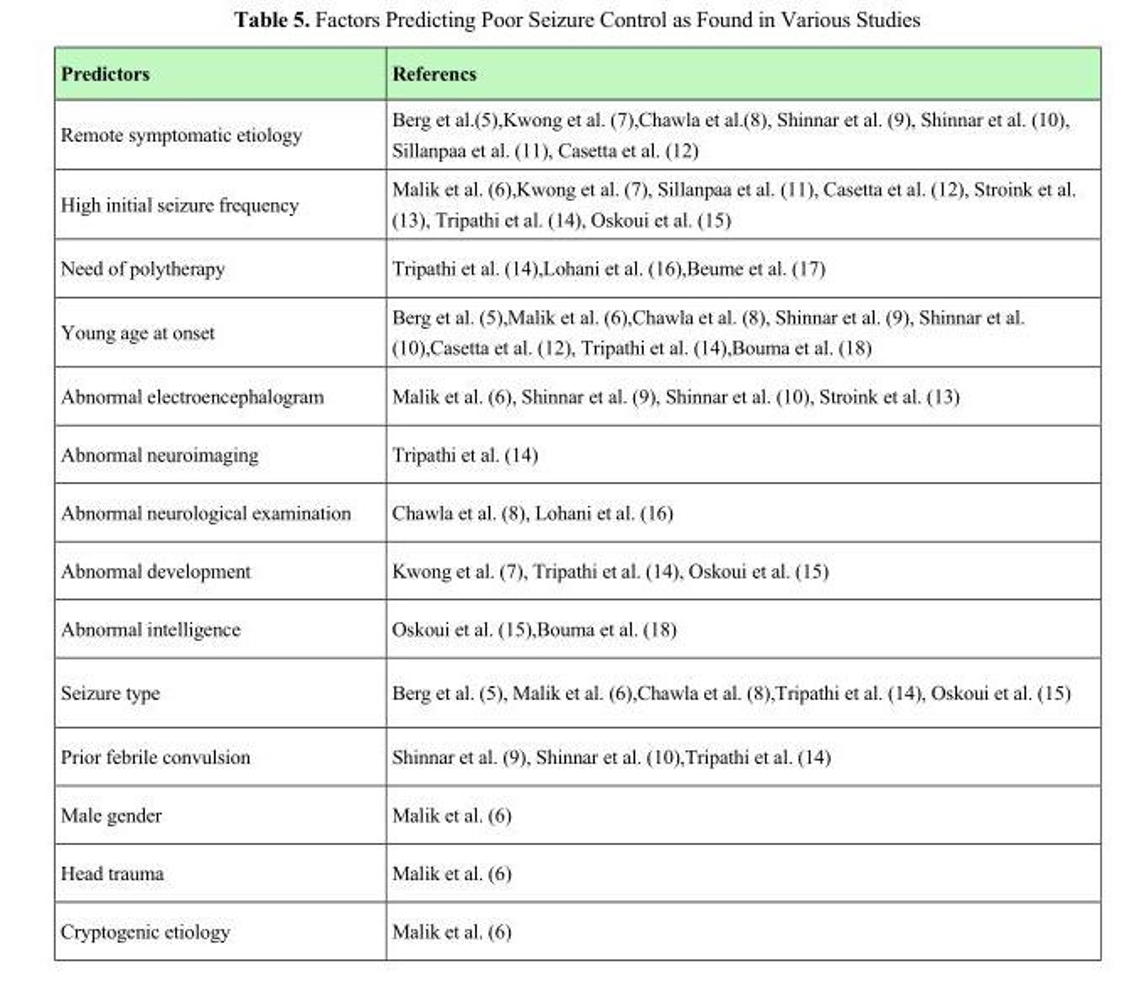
<table><thead><tr><td>Predictors</td><td>Referencs</td></tr></thead><tbody><tr><td>Remote symptomatic etiology</td><td>Berg et al.(5),Kwong et al. (7),Chawla et al.(8), Shinnar et al. (9), Shinnar et al. (10), Sillanpaa et al. (11), Casetta et al. (12)</td></tr><tr><td>High initial seizure frequency</td><td>Malik et al. (6),Kwong et al. (7), Sillanpaa et al. (11), Casetta et al. (12), Stroink et al. (13), Tripathi et al. (14), Oskoui et al. (15)</td></tr><tr><td>Need of polytherapy</td><td>Tripathi et al. (14),Lohani et al. (16),Beume et al. (17)</td></tr><tr><td>Young age at onset</td><td>Berg et al. (5),Malik et al. (6),Chawla et al. (8), Shinnar et al. (9), Shinnar et al. (10),Casetta et al. (12), Tripathi et al. (14),Bouma et al. (18)</td></tr><tr><td>Abnormal electroencephalogram</td><td>Malik et al. (6), Shinnar et al. (9), Shinnar et al. (10), Stroink et al. (13)</td></tr><tr><td>Abnormal neuroimaging</td><td>Tripathi et al. (14)</td></tr><tr><td>Abnormal neurological examination</td><td>Chawla et al. (8), Lohani et al. (16)</td></tr><tr><td>Abnormal development</td><td>Kwong et al. (7), Tripathi et al. (14), Oskoui et al. (15)</td></tr><tr><td>Abnormal intelligence</td><td>Oskoui et al. (15),Bouma et al. (18)</td></tr><tr><td>Seizure type</td><td>Berg et al. (5), Malik et al. (6),Chawla et al. (8),Tripathi et al. (14), Oskoui et al. (15)</td></tr><tr><td>Prior febrile convulsion</td><td>Shinnar et al. (9), Shinnar et al. (10),Tripathi et al. (14)</td></tr><tr><td>Male gender</td><td>Malik et al. (6)</td></tr><tr><td>Head trauma</td><td>Malik et al. (6)</td></tr><tr><td>Cryptogenic etiology</td><td>Malik et al. (6)</td></tr></tbody></table>